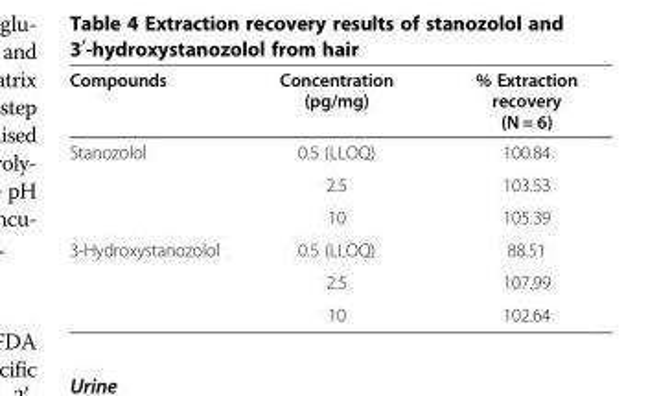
<table><thead><tr><td>Compounds</td><td>Concentration (pg/mg)</td><td>% Extraction recovery (N = 6)</td></tr></thead><tbody><tr><td rowspan="3">Stanozolol</td><td>0.5 (LLOQ)</td><td>100.84</td></tr><tr><td>2.5</td><td>103.53</td></tr><tr><td>10</td><td>105.39</td></tr><tr><td rowspan="3">3-Hydroxystanozolol</td><td>0.5 (LLOQ)</td><td>88.51</td></tr><tr><td>2.5</td><td>107.99</td></tr><tr><td>10</td><td>102.64</td></tr></tbody></table>